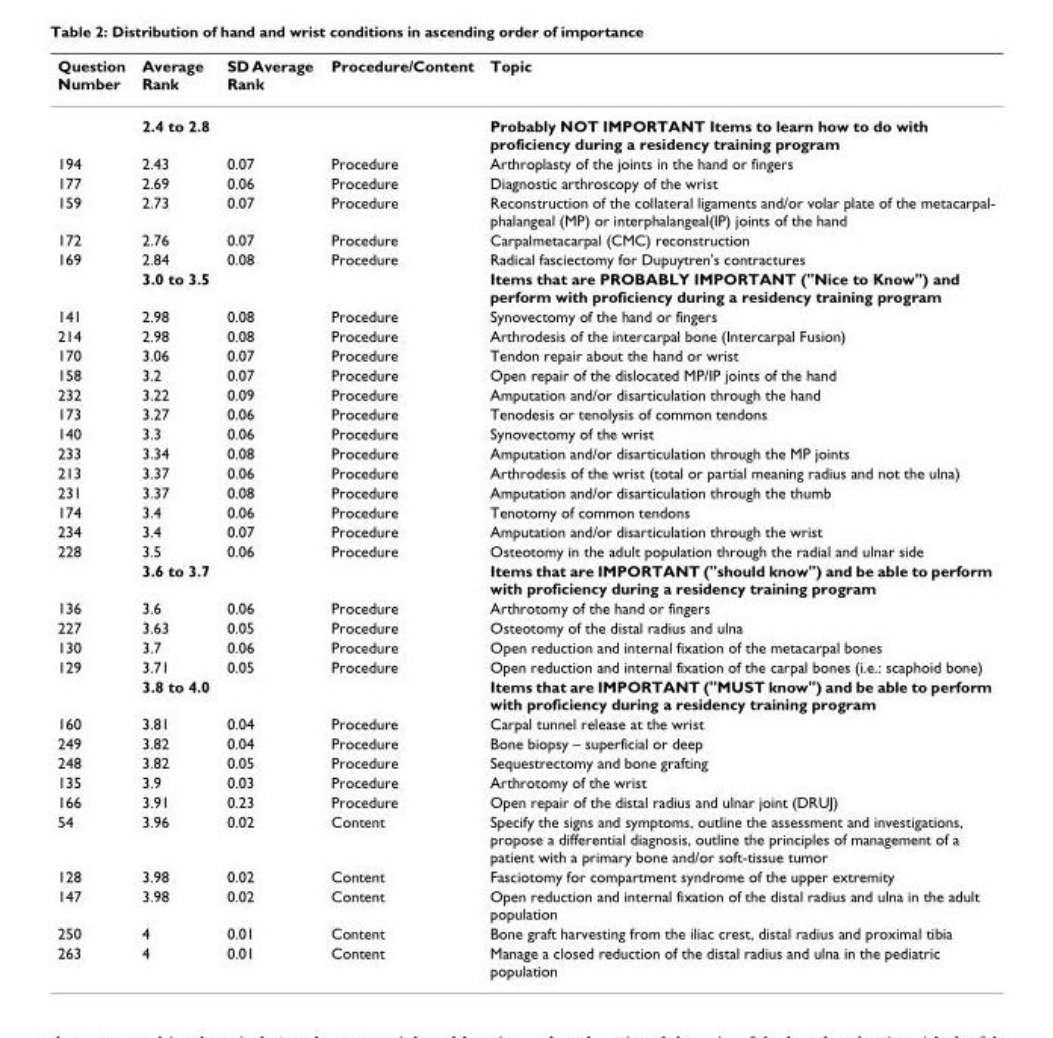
<table><thead><tr><td>Question Number</td><td>Average Rank</td><td>SD Average Rank</td><td>Procedure/Content</td><td>Topic</td></tr></thead><tbody><tr><td></td><td>2.4 to 2.8</td><td></td><td></td><td>Probably NOT IMPORTANT Items to learn how to do with proficiency during a residency training program</td></tr><tr><td>194</td><td>2.43</td><td>0.07</td><td>Procedure</td><td>Arthroplasty of the joints in the hand or fingers</td></tr><tr><td>177</td><td>2.69</td><td>0.06</td><td>Procedure</td><td>Diagnostic arthroscopy of the wrist</td></tr><tr><td>159</td><td>2.73</td><td>0.07</td><td>Procedure</td><td>Reconstruction of the collateral ligaments and/or volar plate of the metacarpal- phalangeal (MP) or interphalangeal(IP) joints of the hand</td></tr><tr><td>172</td><td>2.76</td><td>0.07</td><td>Procedure</td><td>Carpalmetacarpal (CMC) reconstruction</td></tr><tr><td rowspan="2">169</td><td>2.84</td><td>0.08</td><td>Procedure</td><td>Radical fasciectomy for Dupuytren&#x27;s contractures</td></tr><tr><td>3.0 to 3.5</td><td></td><td></td><td>Items that are PROBABLY IMPORTANT (&quot;Nice to Know&quot;) and perform with proficiency during a residency training program</td></tr><tr><td>141</td><td>2.98</td><td>0.08</td><td>Procedure</td><td>Synovectomy of the hand or fingers</td></tr><tr><td>214</td><td>2.98</td><td>0.08</td><td>Procedure</td><td>Arthrodesis of the intercarpal bone (Intercarpal Fusion)</td></tr><tr><td>170</td><td>3.06</td><td>0.07</td><td>Procedure</td><td>Tendon repair about the hand or wrist</td></tr><tr><td>158</td><td>3.2</td><td>0.07</td><td>Procedure</td><td>Open repair of the dislocated MP/IP joints of the hand</td></tr><tr><td>232</td><td>3.22</td><td>0.09</td><td>Procedure</td><td>Amputation and/or disarticulation through the hand</td></tr><tr><td>173</td><td>3.27</td><td>0.06</td><td>Procedure</td><td>Tenodesis or tenolysis of common tendons</td></tr><tr><td>140</td><td>3.3</td><td>0.06</td><td>Procedure</td><td>Synovectomy of the wrist</td></tr><tr><td>233</td><td>3.34</td><td>0.08</td><td>Procedure</td><td>Amputation and/or disarticulation through the MP joints</td></tr><tr><td>213</td><td>3.37</td><td>0.06</td><td>Procedure</td><td>Arthrodesis of the wrist (total or partial meaning radius and not the ulna)</td></tr><tr><td>231</td><td>3.37</td><td>0.08</td><td>Procedure</td><td>Amputation and/or disarticulation through the thumb</td></tr><tr><td>174</td><td>3.4</td><td>0.06</td><td>Procedure</td><td>Tenotomy of common tendons</td></tr><tr><td>234</td><td>3.4</td><td>0.07</td><td>Procedure</td><td>Amputation and/or disarticulation through the wrist</td></tr><tr><td rowspan="2">228</td><td>3.5</td><td>0.06</td><td>Procedure</td><td>Osteotomy in the adult population through the radial and ulnar side</td></tr><tr><td>3.6 to 3.7</td><td></td><td></td><td>Items that are IMPORTANT (&quot;should know&quot;) and be able to perform with proficiency during a residency training program</td></tr><tr><td>136</td><td>3.6</td><td>0.06</td><td>Procedure</td><td>Arthrotomy of the hand or fingers</td></tr><tr><td>227</td><td>3.63</td><td>0.05</td><td>Procedure</td><td>Osteotomy of the distal radius and ulna</td></tr><tr><td>130</td><td>3.7</td><td>0.06</td><td>Procedure</td><td>Open reduction and internal fixation of the metacarpal bones</td></tr><tr><td rowspan="2">129</td><td>3.71</td><td>0.05</td><td>Procedure</td><td>Open reduction and internal fixation of the carpal bones (i.e.: scaphoid bone)</td></tr><tr><td>3.8 to 4.0</td><td></td><td></td><td>Items that are IMPORTANT (&quot;MUST know&quot;) and be able to perform with proficiency during a residency training program</td></tr><tr><td>160</td><td>3.81</td><td>0.04</td><td>Procedure</td><td>Carpal tunnel release at the wrist</td></tr><tr><td>249</td><td>3.82</td><td>0.04</td><td>Procedure</td><td>Bone biopsy – superficial or deep</td></tr><tr><td>248</td><td>3.82</td><td>0.05</td><td>Procedure</td><td>Sequestrectomy and bone grafting</td></tr><tr><td>135</td><td>3.9</td><td>0.03</td><td>Procedure</td><td>Arthrotomy of the wrist</td></tr><tr><td>166</td><td>3.91</td><td>0.23</td><td>Procedure</td><td>Open repair of the distal radius and ulnar joint (DRUJ)</td></tr><tr><td>54</td><td>3.96</td><td>0.02</td><td>Content</td><td>Specify the signs and symptoms, outline the assessment and investigations, propose a differential diagnosis, outline the principles of management of a patient with a primary bone and/or soft-tissue tumor</td></tr><tr><td>128</td><td>3.98</td><td>0.02</td><td>Content</td><td>Fasciotomy for compartment syndrome of the upper extremity</td></tr><tr><td>147</td><td>3.98</td><td>0.02</td><td>Content</td><td>Open reduction and internal fixation of the distal radius and ulna in the adult population</td></tr><tr><td>250</td><td>4</td><td>0.01</td><td>Content</td><td>Bone graft harvesting from the iliac crest, distal radius and proximal tibia</td></tr><tr><td>263</td><td>4</td><td>0.01</td><td>Content</td><td>Manage a closed reduction of the distal radius and ulna in the pediatric population</td></tr></tbody></table>